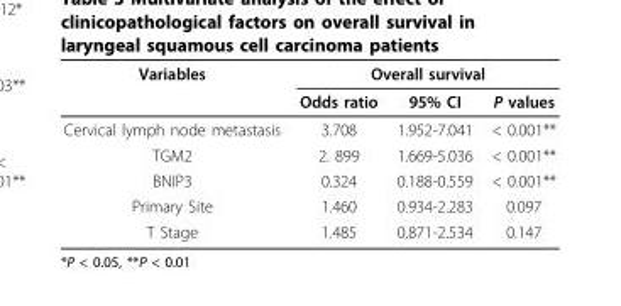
<table><thead><tr><td rowspan="2">Variables</td><td colspan="3">Overall survival</td></tr><tr><td>Odds ratio</td><td>95% CI</td><td>P values</td></tr></thead><tbody><tr><td>Cervical lymph node metastasis</td><td>3.708</td><td>1.952-7.041</td><td>&lt; 0.001**</td></tr><tr><td>TGM2</td><td>2. 899</td><td>1.669-5.036</td><td>&lt; 0.001**</td></tr><tr><td>BNIP3</td><td>0.324</td><td>0.188-0.559</td><td>&lt; 0.001**</td></tr><tr><td>Primary Site</td><td>1.460</td><td>0.934-2.283</td><td>0.097</td></tr><tr><td>T Stage</td><td>1.485</td><td>0.871-2.534</td><td>0.147</td></tr></tbody></table>